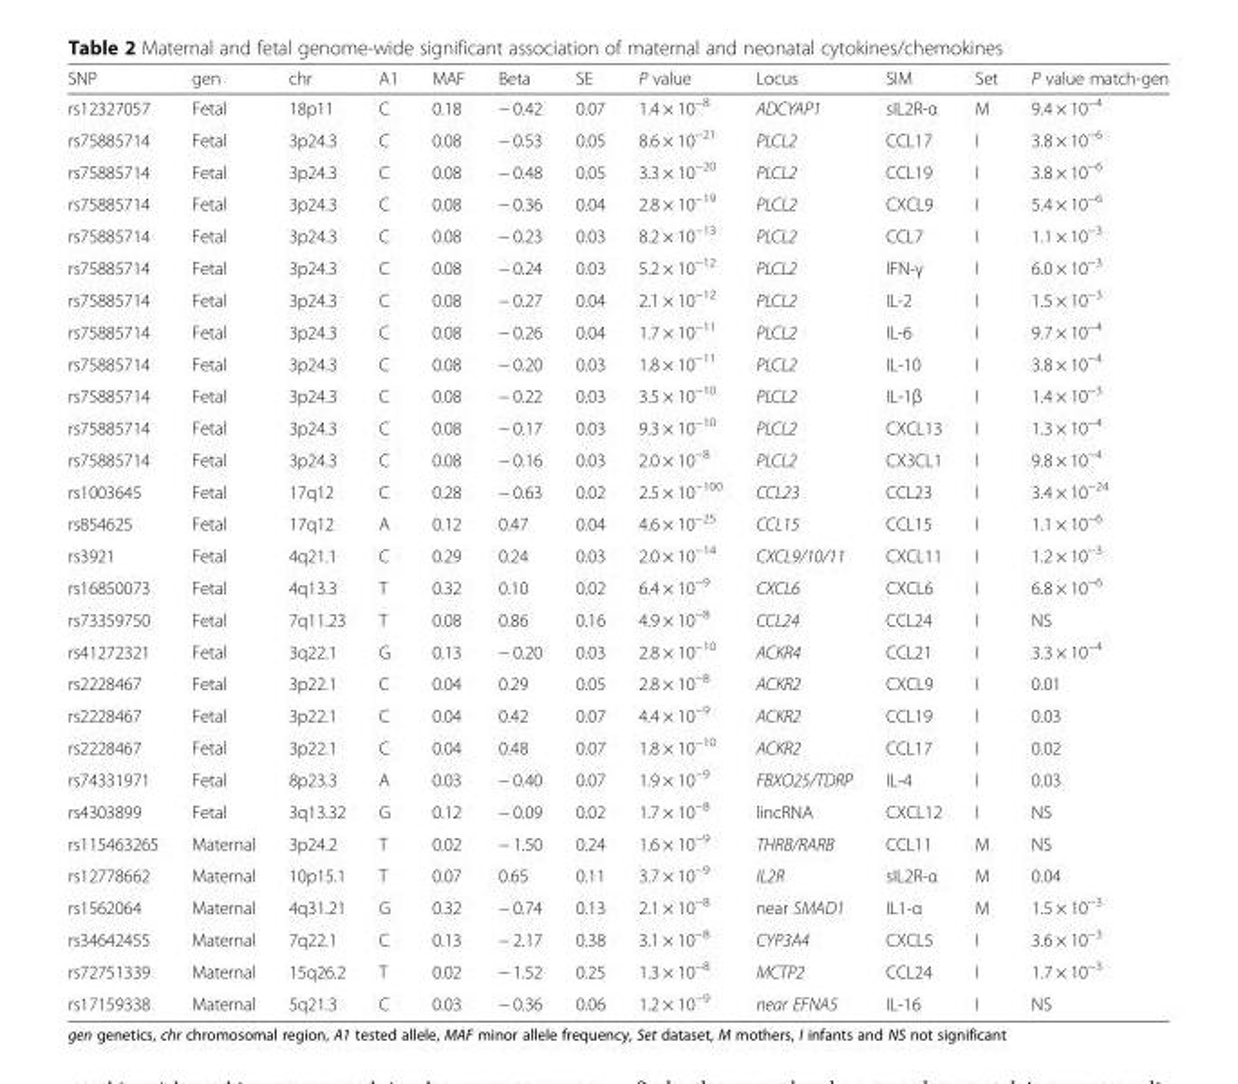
<table><thead><tr><td>SNP</td><td>gen</td><td>chr</td><td>A1</td><td>MAF</td><td>Beta</td><td>SE</td><td>P value</td><td>Locus</td><td>SIM</td><td>Set</td><td>P value match-gen</td></tr></thead><tbody><tr><td>rs12327057</td><td>Fetal</td><td>18p11</td><td>C</td><td>0.18</td><td>− 0.42</td><td>0.07</td><td>1.4 × 10<sup>−8</sup></td><td>ADCYAP1</td><td>sIL2R-α</td><td>M</td><td>9.4 × 10<sup>−4</sup></td></tr><tr><td>rs75885714</td><td>Fetal</td><td>3p24.3</td><td>C</td><td>0.08</td><td>− 0.53</td><td>0.05</td><td>8.6 × 10<sup>−21</sup></td><td>PLCL2</td><td>CCL17</td><td>I</td><td>3.8 × 10<sup>−6</sup></td></tr><tr><td>rs75885714</td><td>Fetal</td><td>3p24.3</td><td>C</td><td>0.08</td><td>− 0.48</td><td>0.05</td><td>3.3 × 10<sup>−20</sup></td><td>PLCL2</td><td>CCL19</td><td>I</td><td>3.8 × 10<sup>−6</sup></td></tr><tr><td>rs75885714</td><td>Fetal</td><td>3p24.3</td><td>C</td><td>0.08</td><td>− 0.36</td><td>0.04</td><td>2.8 × 10<sup>−19</sup></td><td>PLCL2</td><td>CXCL9</td><td>I</td><td>5.4 × 10<sup>−6</sup></td></tr><tr><td>rs75885714</td><td>Fetal</td><td>3p24.3</td><td>C</td><td>0.08</td><td>− 0.23</td><td>0.03</td><td>8.2 × 10<sup>−13</sup></td><td>PLCL2</td><td>CCL7</td><td>I</td><td>1.1 × 10<sup>−3</sup></td></tr><tr><td>rs75885714</td><td>Fetal</td><td>3p24.3</td><td>C</td><td>0.08</td><td>− 0.24</td><td>0.03</td><td>5.2 × 10<sup>−12</sup></td><td>PLCL2</td><td>IFN-γ</td><td>I</td><td>6.0 × 10<sup>−3</sup></td></tr><tr><td>rs75885714</td><td>Fetal</td><td>3p24.3</td><td>C</td><td>0.08</td><td>− 0.27</td><td>0.04</td><td>2.1 × 10<sup>−12</sup></td><td>PLCL2</td><td>IL-2</td><td>I</td><td>1.5 × 10<sup>−3</sup></td></tr><tr><td>rs75885714</td><td>Fetal</td><td>3p24.3</td><td>C</td><td>0.08</td><td>− 0.26</td><td>0.04</td><td>1.7 × 10<sup>−11</sup></td><td>PLCL2</td><td>IL-6</td><td>I</td><td>9.7 × 10<sup>−4</sup></td></tr><tr><td>rs75885714</td><td>Fetal</td><td>3p24.3</td><td>C</td><td>0.08</td><td>− 0.20</td><td>0.03</td><td>1.8 × 10<sup>−11</sup></td><td>PLCL2</td><td>IL-10</td><td>I</td><td>3.8 × 10<sup>−4</sup></td></tr><tr><td>rs75885714</td><td>Fetal</td><td>3p24.3</td><td>C</td><td>0.08</td><td>− 0.22</td><td>0.03</td><td>3.5 × 10<sup>−10</sup></td><td>PLCL2</td><td>IL-1β</td><td>I</td><td>1.4 × 10<sup>−3</sup></td></tr><tr><td>rs75885714</td><td>Fetal</td><td>3p24.3</td><td>C</td><td>0.08</td><td>− 0.17</td><td>0.03</td><td>9.3 × 10<sup>−10</sup></td><td>PLCL2</td><td>CXCL13</td><td>I</td><td>1.3 × 10<sup>−4</sup></td></tr><tr><td>rs75885714</td><td>Fetal</td><td>3p24.3</td><td>C</td><td>0.08</td><td>− 0.16</td><td>0.03</td><td>2.0 × 10<sup>−8</sup></td><td>PLCL2</td><td>CX3CL1</td><td>I</td><td>9.8 × 10<sup>−4</sup></td></tr><tr><td>rs1003645</td><td>Fetal</td><td>17q12</td><td>C</td><td>0.28</td><td>− 0.63</td><td>0.02</td><td>2.5 × 10<sup>−100</sup></td><td>CCL23</td><td>CCL23</td><td>I</td><td>3.4 × 10<sup>−24</sup></td></tr><tr><td>rs854625</td><td>Fetal</td><td>17q12</td><td>A</td><td>0.12</td><td>0.47</td><td>0.04</td><td>4.6 × 10<sup>−25</sup></td><td>CCL15</td><td>CCL15</td><td>I</td><td>1.1 × 10<sup>−6</sup></td></tr><tr><td>rs3921</td><td>Fetal</td><td>4q21.1</td><td>C</td><td>0.29</td><td>0.24</td><td>0.03</td><td>2.0 × 10<sup>−14</sup></td><td>CXCL9/10/11</td><td>CXCL11</td><td>I</td><td>1.2 × 10<sup>−3</sup></td></tr><tr><td>rs16850073</td><td>Fetal</td><td>4q13.3</td><td>T</td><td>0.32</td><td>0.10</td><td>0.02</td><td>6.4 × 10<sup>−9</sup></td><td>CXCL6</td><td>CXCL6</td><td>I</td><td>6.8 × 10<sup>−6</sup></td></tr><tr><td>rs73359750</td><td>Fetal</td><td>7q11.23</td><td>T</td><td>0.08</td><td>0.86</td><td>0.16</td><td>4.9 × 10<sup>−8</sup></td><td>CCL24</td><td>CCL24</td><td>I</td><td>NS</td></tr><tr><td>rs41272321</td><td>Fetal</td><td>3q22.1</td><td>G</td><td>0.13</td><td>− 0.20</td><td>0.03</td><td>2.8 × 10<sup>−10</sup></td><td>ACKR4</td><td>CCL21</td><td>I</td><td>3.3 × 10<sup>−4</sup></td></tr><tr><td>rs2228467</td><td>Fetal</td><td>3p22.1</td><td>C</td><td>0.04</td><td>0.29</td><td>0.05</td><td>2.8 × 10<sup>−8</sup></td><td>ACKR2</td><td>CXCL9</td><td>I</td><td>0.01</td></tr><tr><td>rs2228467</td><td>Fetal</td><td>3p22.1</td><td>C</td><td>0.04</td><td>0.42</td><td>0.07</td><td>4.4 × 10<sup>−9</sup></td><td>ACKR2</td><td>CCL19</td><td>I</td><td>0.03</td></tr><tr><td>rs2228467</td><td>Fetal</td><td>3p22.1</td><td>C</td><td>0.04</td><td>0.48</td><td>0.07</td><td>1.8 × 10<sup>−10</sup></td><td>ACKR2</td><td>CCL17</td><td>I</td><td>0.02</td></tr><tr><td>rs74331971</td><td>Fetal</td><td>8p23.3</td><td>A</td><td>0.03</td><td>− 0.40</td><td>0.07</td><td>1.9 × 10<sup>−9</sup></td><td>FBXO25/TDRP</td><td>IL-4</td><td>I</td><td>0.03</td></tr><tr><td>rs4303899</td><td>Fetal</td><td>3q13.32</td><td>G</td><td>0.12</td><td>− 0.09</td><td>0.02</td><td>1.7 × 10<sup>−8</sup></td><td>lincRNA</td><td>CXCL12</td><td>I</td><td>NS</td></tr><tr><td>rs115463265</td><td>Maternal</td><td>3p24.2</td><td>T</td><td>0.02</td><td>− 1.50</td><td>0.24</td><td>1.6 × 10<sup>−9</sup></td><td>THRB/RARB</td><td>CCL11</td><td>M</td><td>NS</td></tr><tr><td>rs12778662</td><td>Maternal</td><td>10p15.1</td><td>T</td><td>0.07</td><td>0.65</td><td>0.11</td><td>3.7 × 10<sup>−9</sup></td><td>IL2R</td><td>sIL2R-α</td><td>M</td><td>0.04</td></tr><tr><td>rs1562064</td><td>Maternal</td><td>4q31.21</td><td>G</td><td>0.32</td><td>− 0.74</td><td>0.13</td><td>2.1 × 10<sup>−8</sup></td><td>near SMAD1</td><td>IL1-α</td><td>M</td><td>1.5 × 10<sup>−3</sup></td></tr><tr><td>rs34642455</td><td>Maternal</td><td>7q22.1</td><td>C</td><td>0.13</td><td>− 2.17</td><td>0.38</td><td>3.1 × 10<sup>−8</sup></td><td>CYP3A4</td><td>CXCL5</td><td>I</td><td>3.6 × 10<sup>−3</sup></td></tr><tr><td>rs72751339</td><td>Maternal</td><td>15q26.2</td><td>T</td><td>0.02</td><td>− 1.52</td><td>0.25</td><td>1.3 × 10<sup>−8</sup></td><td>MCTP2</td><td>CCL24</td><td>I</td><td>1.7 × 10<sup>−3</sup></td></tr><tr><td>rs17159338</td><td>Maternal</td><td>5q21.3</td><td>C</td><td>0.03</td><td>− 0.36</td><td>0.06</td><td>1.2 × 10<sup>−9</sup></td><td>near EFNA5</td><td>IL-16</td><td>I</td><td>NS</td></tr></tbody></table>